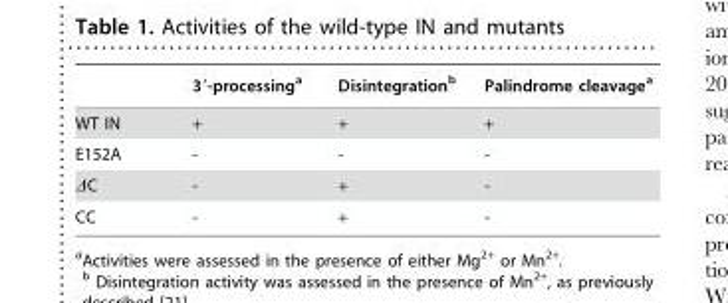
<table><thead><tr><td></td><td>3′-processing<sup>a</sup></td><td>Disintegration<sup>b</sup></td><td>Palindrome cleavage<sup>a</sup></td></tr></thead><tbody><tr><td>WT IN</td><td>+</td><td>+</td><td>+</td></tr><tr><td>E152A</td><td>-</td><td>-</td><td>-</td></tr><tr><td>ΔC</td><td>-</td><td>+</td><td>-</td></tr><tr><td>CC</td><td>-</td><td>+</td><td>-</td></tr></tbody></table>